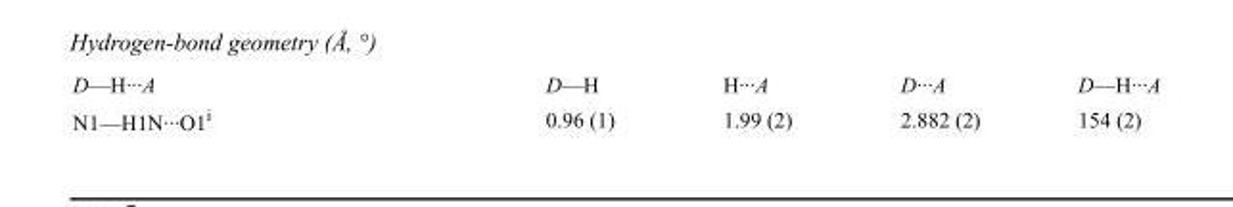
<table><tbody><tr><td>D—H···A</td><td>D—H</td><td>H···A</td><td>D···A</td><td>D—H···A</td></tr><tr><td>N1—H1N···O1<sup>i</sup></td><td>0.96 (1)</td><td>1.99 (2)</td><td>2.882 (2)</td><td>154 (2)</td></tr></tbody></table>